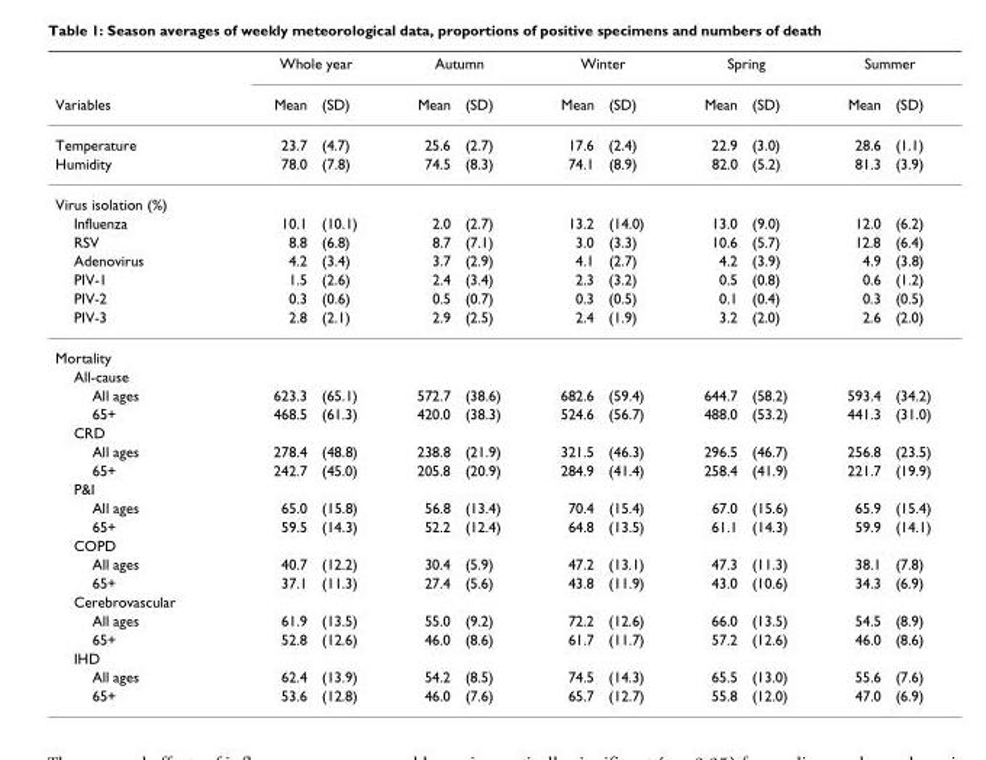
<table><thead><tr><td rowspan="2">Variables</td><td colspan="2">Whole year</td><td colspan="2">Autumn</td><td colspan="2">Winter</td><td colspan="2">Spring</td><td colspan="2">Summer</td></tr><tr><td>Mean</td><td>(SD)</td><td>Mean</td><td>(SD)</td><td>Mean</td><td>(SD)</td><td>Mean</td><td>(SD)</td><td>Mean</td><td>(SD)</td></tr></thead><tbody><tr><td>Temperature</td><td>23.7</td><td>(4.7)</td><td>25.6</td><td>(2.7)</td><td>17.6</td><td>(2.4)</td><td>22.9</td><td>(3.0)</td><td>28.6</td><td>(1.1)</td></tr><tr><td>Humidity</td><td>78.0</td><td>(7.8)</td><td>74.5</td><td>(8.3)</td><td>74.1</td><td>(8.9)</td><td>82.0</td><td>(5.2)</td><td>81.3</td><td>(3.9)</td></tr><tr><td colspan="11">Virus isolation (%)</td></tr><tr><td>Influenza</td><td>10.1</td><td>(10.1)</td><td>2.0</td><td>(2.7)</td><td>13.2</td><td>(14.0)</td><td>13.0</td><td>(9.0)</td><td>12.0</td><td>(6.2)</td></tr><tr><td>RSV</td><td>8.8</td><td>(6.8)</td><td>8.7</td><td>(7.1)</td><td>3.0</td><td>(3.3)</td><td>10.6</td><td>(5.7)</td><td>12.8</td><td>(6.4)</td></tr><tr><td>Adenovirus</td><td>4.2</td><td>(3.4)</td><td>3.7</td><td>(2.9)</td><td>4.1</td><td>(2.7)</td><td>4.2</td><td>(3.9)</td><td>4.9</td><td>(3.8)</td></tr><tr><td>PIV-1</td><td>1.5</td><td>(2.6)</td><td>2.4</td><td>(3.4)</td><td>2.3</td><td>(3.2)</td><td>0.5</td><td>(0.8)</td><td>0.6</td><td>(1.2)</td></tr><tr><td>PIV-2</td><td>0.3</td><td>(0.6)</td><td>0.5</td><td>(0.7)</td><td>0.3</td><td>(0.5)</td><td>0.1</td><td>(0.4)</td><td>0.3</td><td>(0.5)</td></tr><tr><td>PIV-3</td><td>2.8</td><td>(2.1)</td><td>2.9</td><td>(2.5)</td><td>2.4</td><td>(1.9)</td><td>3.2</td><td>(2.0)</td><td>2.6</td><td>(2.0)</td></tr><tr><td colspan="11">Mortality</td></tr><tr><td colspan="11">All-cause</td></tr><tr><td>All ages</td><td>623.3</td><td>(65.1)</td><td>572.7</td><td>(38.6)</td><td>682.6</td><td>(59.4)</td><td>644.7</td><td>(58.2)</td><td>593.4</td><td>(34.2)</td></tr><tr><td>65+</td><td>468.5</td><td>(61.3)</td><td>420.0</td><td>(38.3)</td><td>524.6</td><td>(56.7)</td><td>488.0</td><td>(53.2)</td><td>441.3</td><td>(31.0)</td></tr><tr><td colspan="11">CRD</td></tr><tr><td>All ages</td><td>278.4</td><td>(48.8)</td><td>238.8</td><td>(21.9)</td><td>321.5</td><td>(46.3)</td><td>296.5</td><td>(46.7)</td><td>256.8</td><td>(23.5)</td></tr><tr><td>65+</td><td>242.7</td><td>(45.0)</td><td>205.8</td><td>(20.9)</td><td>284.9</td><td>(41.4)</td><td>258.4</td><td>(41.9)</td><td>221.7</td><td>(19.9)</td></tr><tr><td colspan="11">P&amp;I</td></tr><tr><td>All ages</td><td>65.0</td><td>(15.8)</td><td>56.8</td><td>(13.4)</td><td>70.4</td><td>(15.4)</td><td>67.0</td><td>(15.6)</td><td>65.9</td><td>(15.4)</td></tr><tr><td>65+</td><td>59.5</td><td>(14.3)</td><td>52.2</td><td>(12.4)</td><td>64.8</td><td>(13.5)</td><td>61.1</td><td>(14.3)</td><td>59.9</td><td>(14.1)</td></tr><tr><td colspan="11">COPD</td></tr><tr><td>All ages</td><td>40.7</td><td>(12.2)</td><td>30.4</td><td>(5.9)</td><td>47.2</td><td>(13.1)</td><td>47.3</td><td>(11.3)</td><td>38.1</td><td>(7.8)</td></tr><tr><td>65+</td><td>37.1</td><td>(11.3)</td><td>27.4</td><td>(5.6)</td><td>43.8</td><td>(11.9)</td><td>43.0</td><td>(10.6)</td><td>34.3</td><td>(6.9)</td></tr><tr><td colspan="11">Cerebrovascular</td></tr><tr><td>All ages</td><td>61.9</td><td>(13.5)</td><td>55.0</td><td>(9.2)</td><td>72.2</td><td>(12.6)</td><td>66.0</td><td>(13.5)</td><td>54.5</td><td>(8.9)</td></tr><tr><td>65+</td><td>52.8</td><td>(12.6)</td><td>46.0</td><td>(8.6)</td><td>61.7</td><td>(11.7)</td><td>57.2</td><td>(12.6)</td><td>46.0</td><td>(8.6)</td></tr><tr><td colspan="11">IHD</td></tr><tr><td>All ages</td><td>62.4</td><td>(13.9)</td><td>54.2</td><td>(8.5)</td><td>74.5</td><td>(14.3)</td><td>65.5</td><td>(13.0)</td><td>55.6</td><td>(7.6)</td></tr><tr><td>65+</td><td>53.6</td><td>(12.8)</td><td>46.0</td><td>(7.6)</td><td>65.7</td><td>(12.7)</td><td>55.8</td><td>(12.0)</td><td>47.0</td><td>(6.9)</td></tr></tbody></table>